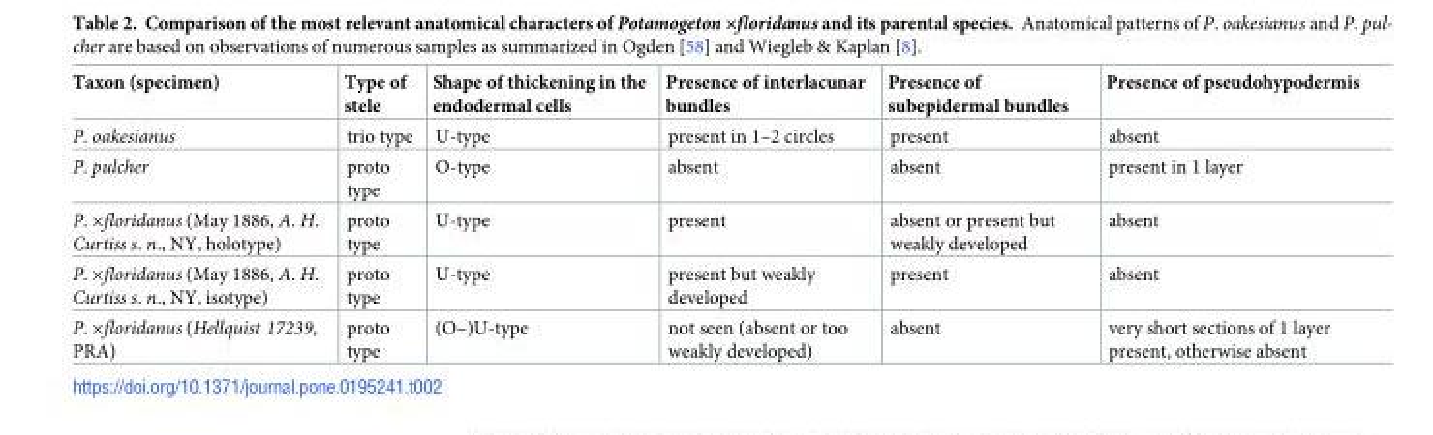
<table><thead><tr><td>Taxon (specimen)</td><td>Type of stele</td><td>Shape of thickening in the endodermal cells</td><td>Presence of interlacunar bundles</td><td>Presence of subepidermal bundles</td><td>Presence of pseudohypodermis</td></tr></thead><tbody><tr><td>P. oakesianus</td><td>trio type</td><td>U-type</td><td>present in 1–2 circles</td><td>present</td><td>absent</td></tr><tr><td>P. pulcher</td><td>proto type</td><td>O-type</td><td>absent</td><td>absent</td><td>present in 1 layer</td></tr><tr><td>P. ×floridanus (May 1886, A. H. Curtiss s. n., NY, holotype)</td><td>proto type</td><td>U-type</td><td>present</td><td>absent or present but weakly developed</td><td>absent</td></tr><tr><td>P. ×floridanus (May 1886, A. H. Curtiss s. n., NY, isotype)</td><td>proto type</td><td>U-type</td><td>present but weakly developed</td><td>present</td><td>absent</td></tr><tr><td>P. ×floridanus (Hellquist 17239, PRA)</td><td>proto type</td><td>(O–)U-type</td><td>not seen (absent or too weakly developed)</td><td>absent</td><td>very short sections of 1 layer present, otherwise absent</td></tr></tbody></table>